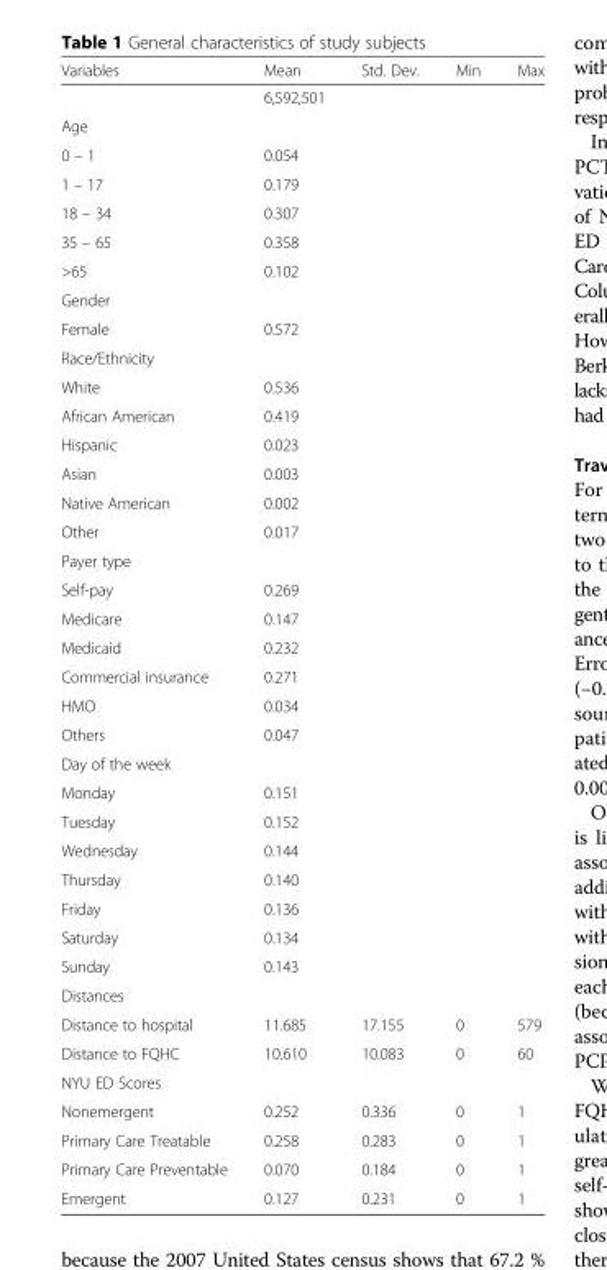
<table><thead><tr><td>Variables</td><td>Mean</td><td>Std. Dev.</td><td>Min</td><td>Max</td></tr></thead><tbody><tr><td></td><td>6,592,501</td><td></td><td></td><td></td></tr><tr><td colspan="5">Age</td></tr><tr><td>0 – 1</td><td>0.054</td><td></td><td></td><td></td></tr><tr><td>1 – 17</td><td>0.179</td><td></td><td></td><td></td></tr><tr><td>18 – 34</td><td>0.307</td><td></td><td></td><td></td></tr><tr><td>35 – 65</td><td>0.358</td><td></td><td></td><td></td></tr><tr><td>&gt;65</td><td>0.102</td><td></td><td></td><td></td></tr><tr><td colspan="5">Gender</td></tr><tr><td>Female</td><td>0.572</td><td></td><td></td><td></td></tr><tr><td colspan="5">Race/Ethnicity</td></tr><tr><td>White</td><td>0.536</td><td></td><td></td><td></td></tr><tr><td>African American</td><td>0.419</td><td></td><td></td><td></td></tr><tr><td>Hispanic</td><td>0.023</td><td></td><td></td><td></td></tr><tr><td>Asian</td><td>0.003</td><td></td><td></td><td></td></tr><tr><td>Native American</td><td>0.002</td><td></td><td></td><td></td></tr><tr><td>Other</td><td>0.017</td><td></td><td></td><td></td></tr><tr><td colspan="5">Payer type</td></tr><tr><td>Self-pay</td><td>0.269</td><td></td><td></td><td></td></tr><tr><td>Medicare</td><td>0.147</td><td></td><td></td><td></td></tr><tr><td>Medicaid</td><td>0.232</td><td></td><td></td><td></td></tr><tr><td>Commercial insurance</td><td>0.271</td><td></td><td></td><td></td></tr><tr><td>HMO</td><td>0.034</td><td></td><td></td><td></td></tr><tr><td>Others</td><td>0.047</td><td></td><td></td><td></td></tr><tr><td colspan="5">Day of the week</td></tr><tr><td>Monday</td><td>0.151</td><td></td><td></td><td></td></tr><tr><td>Tuesday</td><td>0.152</td><td></td><td></td><td></td></tr><tr><td>Wednesday</td><td>0.144</td><td></td><td></td><td></td></tr><tr><td>Thursday</td><td>0.140</td><td></td><td></td><td></td></tr><tr><td>Friday</td><td>0.136</td><td></td><td></td><td></td></tr><tr><td>Saturday</td><td>0.134</td><td></td><td></td><td></td></tr><tr><td>Sunday</td><td>0.143</td><td></td><td></td><td></td></tr><tr><td colspan="5">Distances</td></tr><tr><td>Distance to hospital</td><td>11.685</td><td>17.155</td><td>0</td><td>579</td></tr><tr><td>Distance to FQHC</td><td>10.610</td><td>10.083</td><td>0</td><td>60</td></tr><tr><td colspan="5">NYU ED Scores</td></tr><tr><td>Nonemergent</td><td>0.252</td><td>0.336</td><td>0</td><td>1</td></tr><tr><td>Primary Care Treatable</td><td>0.258</td><td>0.283</td><td>0</td><td>1</td></tr><tr><td>Primary Care Preventable</td><td>0.070</td><td>0.184</td><td>0</td><td>1</td></tr><tr><td>Emergent</td><td>0.127</td><td>0.231</td><td>0</td><td>1</td></tr></tbody></table>